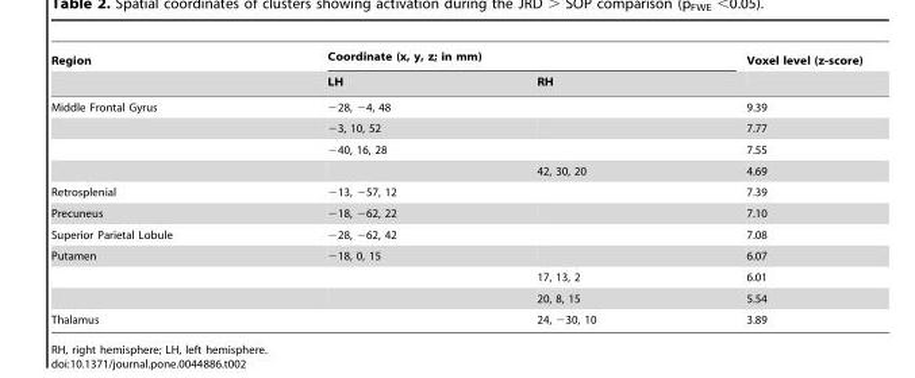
<table><thead><tr><td rowspan="2">Region</td><td colspan="2">Coordinate (x, y, z; in mm)</td><td rowspan="2">Voxel level (z-score)</td></tr><tr><td>LH</td><td>RH</td></tr></thead><tbody><tr><td rowspan="4">Middle Frontal Gyrus</td><td>−28, −4, 48</td><td></td><td>9.39</td></tr><tr><td>−3, 10, 52</td><td></td><td>7.77</td></tr><tr><td>−40, 16, 28</td><td></td><td>7.55</td></tr><tr><td></td><td>42, 30, 20</td><td>4.69</td></tr><tr><td>Retrosplenial</td><td>−13, −57, 12</td><td></td><td>7.39</td></tr><tr><td>Precuneus</td><td>−18, −62, 22</td><td></td><td>7.10</td></tr><tr><td>Superior Parietal Lobule</td><td>−28, −62, 42</td><td></td><td>7.08</td></tr><tr><td rowspan="3">Putamen</td><td>−18, 0, 15</td><td></td><td>6.07</td></tr><tr><td></td><td>17, 13, 2</td><td>6.01</td></tr><tr><td></td><td>20, 8, 15</td><td>5.54</td></tr><tr><td>Thalamus</td><td></td><td>24, −30, 10</td><td>3.89</td></tr></tbody></table>